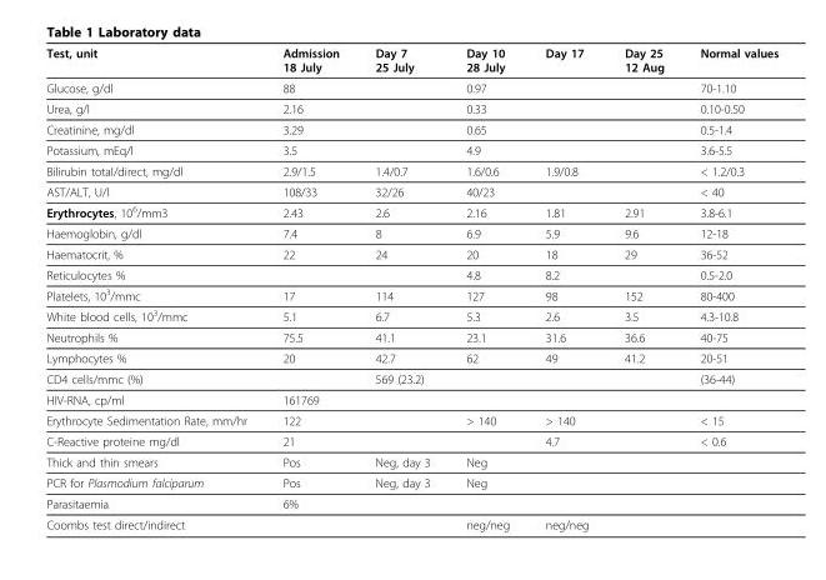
<table><thead><tr><td>Test, unit</td><td>Admission 18 July</td><td>Day 7 25 July</td><td>Day 10 28 July</td><td>Day 17</td><td>Day 25 12 Aug</td><td>Normal values</td></tr></thead><tbody><tr><td>Glucose, g/dl</td><td>88</td><td></td><td>0.97</td><td></td><td></td><td>70-1.10</td></tr><tr><td>Urea, g/l</td><td>2.16</td><td></td><td>0.33</td><td></td><td></td><td>0.10-0.50</td></tr><tr><td>Creatinine, mg/dl</td><td>3.29</td><td></td><td>0.65</td><td></td><td></td><td>0.5-1.4</td></tr><tr><td>Potassium, mEq/l</td><td>3.5</td><td></td><td>4.9</td><td></td><td></td><td>3.6-5.5</td></tr><tr><td>Bilirubin total/direct, mg/dl</td><td>2.9/1.5</td><td>1.4/0.7</td><td>1.6/0.6</td><td>1.9/0.8</td><td></td><td>&lt; 1.2/0.3</td></tr><tr><td>AST/ALT, U/l</td><td>108/33</td><td>32/26</td><td>40/23</td><td></td><td></td><td>&lt; 40</td></tr><tr><td>Erythrocytes, 10<sup>6</sup>/mm3</td><td>2.43</td><td>2.6</td><td>2.16</td><td>1.81</td><td>2.91</td><td>3.8-6.1</td></tr><tr><td>Haemoglobin, g/dl</td><td>7.4</td><td>8</td><td>6.9</td><td>5.9</td><td>9.6</td><td>12-18</td></tr><tr><td>Haematocrit, %</td><td>22</td><td>24</td><td>20</td><td>18</td><td>29</td><td>36-52</td></tr><tr><td>Reticulocytes %</td><td></td><td></td><td>4.8</td><td>8.2</td><td></td><td>0.5-2.0</td></tr><tr><td>Platelets, 10<sup>3</sup>/mmc</td><td>17</td><td>114</td><td>127</td><td>98</td><td>152</td><td>80-400</td></tr><tr><td>White blood cells, 10<sup>3</sup>/mmc</td><td>5.1</td><td>6.7</td><td>5.3</td><td>2.6</td><td>3.5</td><td>4.3-10.8</td></tr><tr><td>Neutrophils %</td><td>75.5</td><td>41.1</td><td>23.1</td><td>31.6</td><td>36.6</td><td>40-75</td></tr><tr><td>Lymphocytes %</td><td>20</td><td>42.7</td><td>62</td><td>49</td><td>41.2</td><td>20-51</td></tr><tr><td>CD4 cells/mmc (%)</td><td></td><td>569 (23.2)</td><td></td><td></td><td></td><td>(36-44)</td></tr><tr><td>HIV-RNA, cp/ml</td><td>161769</td><td></td><td></td><td></td><td></td><td></td></tr><tr><td>Erythrocyte Sedimentation Rate, mm/hr</td><td>122</td><td></td><td>&gt; 140</td><td>&gt; 140</td><td></td><td>&lt; 15</td></tr><tr><td>C-Reactive proteine mg/dl</td><td>21</td><td></td><td></td><td>4.7</td><td></td><td>&lt; 0.6</td></tr><tr><td>Thick and thin smears</td><td>Pos</td><td>Neg, day 3</td><td>Neg</td><td></td><td></td><td></td></tr><tr><td>PCR for Plasmodium falciparum</td><td>Pos</td><td>Neg, day 3</td><td>Neg</td><td></td><td></td><td></td></tr><tr><td>Parasitaemia</td><td>6%</td><td></td><td></td><td></td><td></td><td></td></tr><tr><td>Coombs test direct/indirect</td><td></td><td></td><td>neg/neg</td><td>neg/neg</td><td></td><td></td></tr></tbody></table>